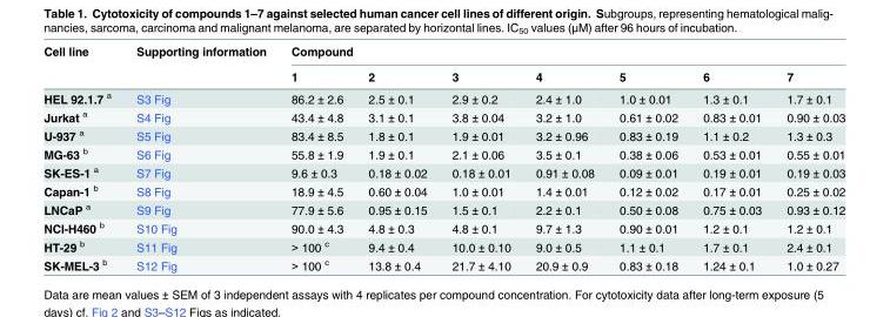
<table><thead><tr><td rowspan="2">Cell line</td><td rowspan="2">Supporting information</td><td colspan="7">Compound</td></tr><tr><td>1</td><td>2</td><td>3</td><td>4</td><td>5</td><td>6</td><td>7</td></tr></thead><tbody><tr><td>HEL 92.1.7 <sup>a</sup></td><td>S3 Fig</td><td>86.2 ± 2.6</td><td>2.5 ± 0.1</td><td>2.9 ± 0.2</td><td>2.4 ± 1.0</td><td>1.0 ± 0.01</td><td>1.3 ± 0.1</td><td>1.7 ± 0.1</td></tr><tr><td>Jurkat <sup>a</sup></td><td>S4 Fig</td><td>43.4 ± 4.8</td><td>3.1 ± 0.1</td><td>3.8 ± 0.04</td><td>3.2 ± 1.0</td><td>0.61 ± 0.02</td><td>0.83 ± 0.01</td><td>0.90 ± 0.03</td></tr><tr><td>U-937 <sup>a</sup></td><td>S5 Fig</td><td>83.4 ± 8.5</td><td>1.8 ± 0.1</td><td>1.9 ± 0.01</td><td>3.2 ± 0.96</td><td>0.83 ± 0.19</td><td>1.1 ± 0.2</td><td>1.3 ± 0.3</td></tr><tr><td>MG-63 <sup>b</sup></td><td>S6 Fig</td><td>55.8 ± 1.9</td><td>1.9 ± 0.1</td><td>2.1 ± 0.06</td><td>3.5 ± 0.1</td><td>0.38 ± 0.06</td><td>0.53 ± 0.01</td><td>0.55 ± 0.01</td></tr><tr><td>SK-ES-1 <sup>a</sup></td><td>S7 Fig</td><td>9.6 ± 0.3</td><td>0.18 ± 0.02</td><td>0.18 ± 0.01</td><td>0.91 ± 0.08</td><td>0.09 ± 0.01</td><td>0.19 ± 0.01</td><td>0.19 ± 0.03</td></tr><tr><td>Capan-1 <sup>b</sup></td><td>S8 Fig</td><td>18.9 ± 4.5</td><td>0.60 ± 0.04</td><td>1.0 ± 0.01</td><td>1.4 ± 0.01</td><td>0.12 ± 0.02</td><td>0.17 ± 0.01</td><td>0.25 ± 0.02</td></tr><tr><td>LNCaP <sup>a</sup></td><td>S9 Fig</td><td>77.9 ± 5.6</td><td>0.95 ± 0.15</td><td>1.5 ± 0.1</td><td>2.2 ± 0.1</td><td>0.50 ± 0.08</td><td>0.75 ± 0.03</td><td>0.93 ± 0.12</td></tr><tr><td>NCI-H460 <sup>b</sup></td><td>S10 Fig</td><td>90.0 ± 4.3</td><td>4.8 ± 0.3</td><td>4.8 ± 0.1</td><td>9.7 ± 1.3</td><td>0.90 ± 0.01</td><td>1.2 ± 0.1</td><td>1.2 ± 0.1</td></tr><tr><td>HT-29 <sup>b</sup></td><td>S11 Fig</td><td>&gt; 100 <sup>c</sup></td><td>9.4 ± 0.4</td><td>10.0 ± 0.10</td><td>9.0 ± 0.5</td><td>1.1 ± 0.1</td><td>1.7 ± 0.1</td><td>2.4 ± 0.1</td></tr><tr><td>SK-MEL-3 <sup>b</sup></td><td>S12 Fig</td><td>&gt; 100 <sup>c</sup></td><td>13.8 ± 0.4</td><td>21.7 ± 4.10</td><td>20.9 ± 0.9</td><td>0.83 ± 0.18</td><td>1.24 ± 0.1</td><td>1.0 ± 0.27</td></tr></tbody></table>